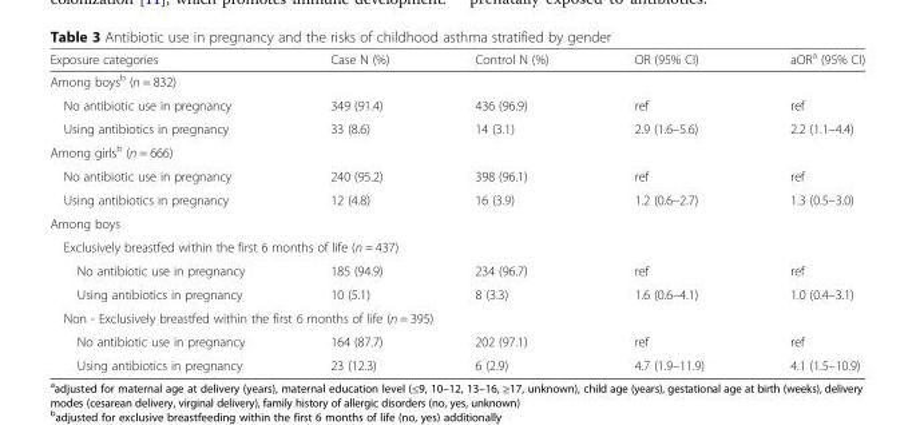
<table><thead><tr><td>Exposure categories</td><td>Case N (%)</td><td>Control N (%)</td><td>OR (95% CI)</td><td>aOR<sup>a</sup> (95% CI)</td></tr></thead><tbody><tr><td colspan="5">Among boys<sup>b</sup> (n = 832)</td></tr><tr><td>No antibiotic use in pregnancy</td><td>349 (91.4)</td><td>436 (96.9)</td><td>ref</td><td>ref</td></tr><tr><td>Using antibiotics in pregnancy</td><td>33 (8.6)</td><td>14 (3.1)</td><td>2.9 (1.6–5.6)</td><td>2.2 (1.1–4.4)</td></tr><tr><td colspan="5">Among girls<sup>b</sup> (n = 666)</td></tr><tr><td>No antibiotic use in pregnancy</td><td>240 (95.2)</td><td>398 (96.1)</td><td>ref</td><td>ref</td></tr><tr><td>Using antibiotics in pregnancy</td><td>12 (4.8)</td><td>16 (3.9)</td><td>1.2 (0.6–2.7)</td><td>1.3 (0.5–3.0)</td></tr><tr><td colspan="5">Among boys</td></tr><tr><td colspan="5">Exclusively breastfed within the first 6 months of life (n = 437)</td></tr><tr><td>No antibiotic use in pregnancy</td><td>185 (94.9)</td><td>234 (96.7)</td><td>ref</td><td>ref</td></tr><tr><td>Using antibiotics in pregnancy</td><td>10 (5.1)</td><td>8 (3.3)</td><td>1.6 (0.6–4.1)</td><td>1.0 (0.4–3.1)</td></tr><tr><td colspan="5">Non - Exclusively breastfed within the first 6 months of life (n = 395)</td></tr><tr><td>No antibiotic use in pregnancy</td><td>164 (87.7)</td><td>202 (97.1)</td><td>ref</td><td>ref</td></tr><tr><td>Using antibiotics in pregnancy</td><td>23 (12.3)</td><td>6 (2.9)</td><td>4.7 (1.9–11.9)</td><td>4.1 (1.5–10.9)</td></tr></tbody></table>